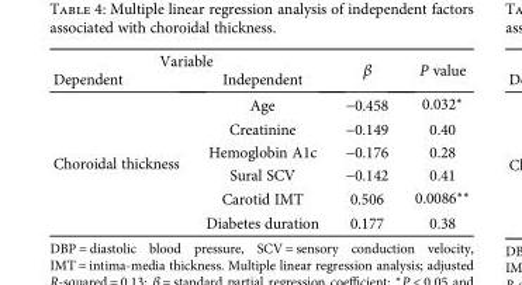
<table><thead><tr><td colspan="2">Variable</td><td rowspan="2">β</td><td rowspan="2">P value</td></tr><tr><td>Dependent</td><td>Independent</td></tr></thead><tbody><tr><td rowspan="6">Choroidal thickness</td><td>Age</td><td>−0.458</td><td>0.032∗</td></tr><tr><td>Creatinine</td><td>−0.149</td><td>0.40</td></tr><tr><td>Hemoglobin A1c</td><td>−0.176</td><td>0.28</td></tr><tr><td>Sural SCV</td><td>−0.142</td><td>0.41</td></tr><tr><td>Carotid IMT</td><td>0.506</td><td>0.0086∗∗</td></tr><tr><td>Diabetes duration</td><td>0.177</td><td>0.38</td></tr></tbody></table>